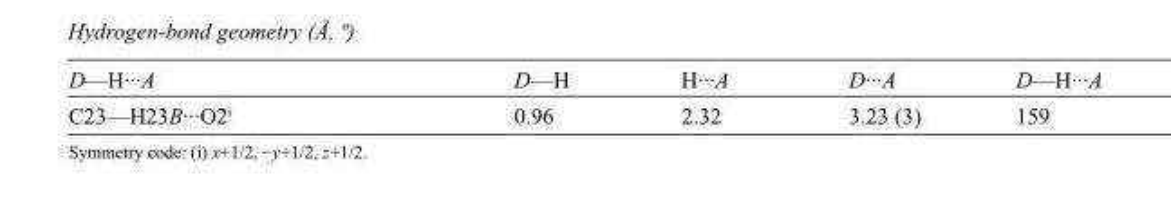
<table><tbody><tr><td>D—H···A</td><td>D—H</td><td>H···A</td><td>D···A</td><td>D—H···A</td></tr><tr><td>C23—H23B···O2<sup>i</sup></td><td>0.96</td><td>2.32</td><td>3.23 (3)</td><td>159</td></tr></tbody></table>